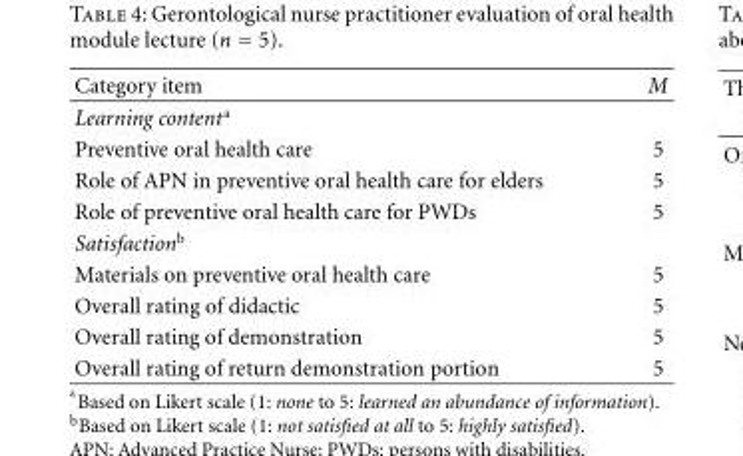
<table><thead><tr><td>Category item</td><td>M</td></tr></thead><tbody><tr><td colspan="2">Learning content<sup>a</sup></td></tr><tr><td>Preventive oral health care</td><td>5</td></tr><tr><td>Role of APN in preventive oral health care for elders</td><td>5</td></tr><tr><td>Role of preventive oral health care for PWDs</td><td>5</td></tr><tr><td colspan="2">Satisfaction<sup>b</sup></td></tr><tr><td>Materials on preventive oral health care</td><td>5</td></tr><tr><td>Overall rating of didactic</td><td>5</td></tr><tr><td>Overall rating of demonstration</td><td>5</td></tr><tr><td>Overall rating of return demonstration portion</td><td>5</td></tr></tbody></table>